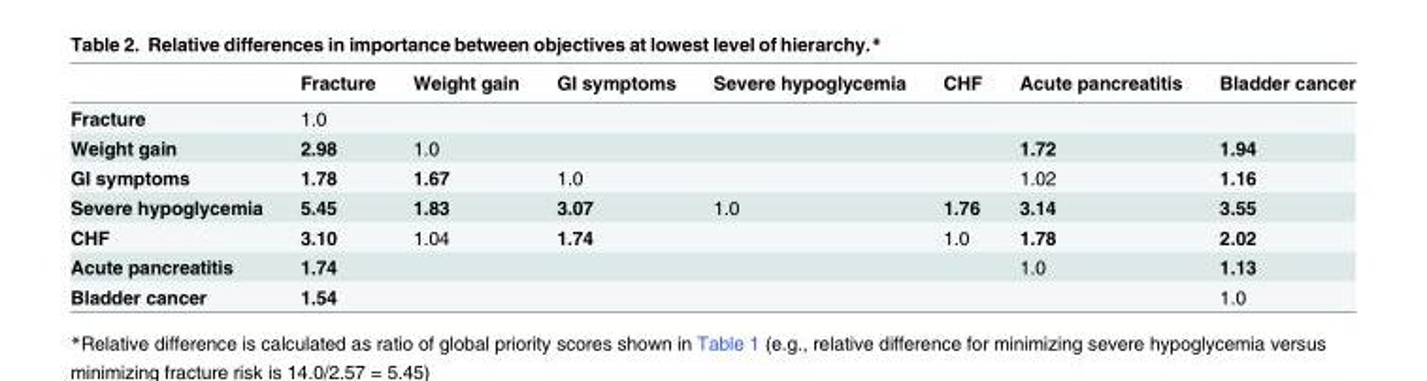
<table><thead><tr><td></td><td>Fracture</td><td>Weight gain</td><td>GI symptoms</td><td>Severe hypoglycemia</td><td>CHF</td><td>Acute pancreatitis</td><td>Bladder cancer</td></tr></thead><tbody><tr><td>Fracture</td><td>1.0</td><td></td><td></td><td></td><td></td><td></td><td></td></tr><tr><td>Weight gain</td><td>2.98</td><td>1.0</td><td></td><td></td><td></td><td>1.72</td><td>1.94</td></tr><tr><td>GI symptoms</td><td>1.78</td><td>1.67</td><td>1.0</td><td></td><td></td><td>1.02</td><td>1.16</td></tr><tr><td>Severe hypoglycemia</td><td>5.45</td><td>1.83</td><td>3.07</td><td>1.0</td><td>1.76</td><td>3.14</td><td>3.55</td></tr><tr><td>CHF</td><td>3.10</td><td>1.04</td><td>1.74</td><td></td><td>1.0</td><td>1.78</td><td>2.02</td></tr><tr><td>Acute pancreatitis</td><td>1.74</td><td></td><td></td><td></td><td></td><td>1.0</td><td>1.13</td></tr><tr><td>Bladder cancer</td><td>1.54</td><td></td><td></td><td></td><td></td><td></td><td>1.0</td></tr></tbody></table>